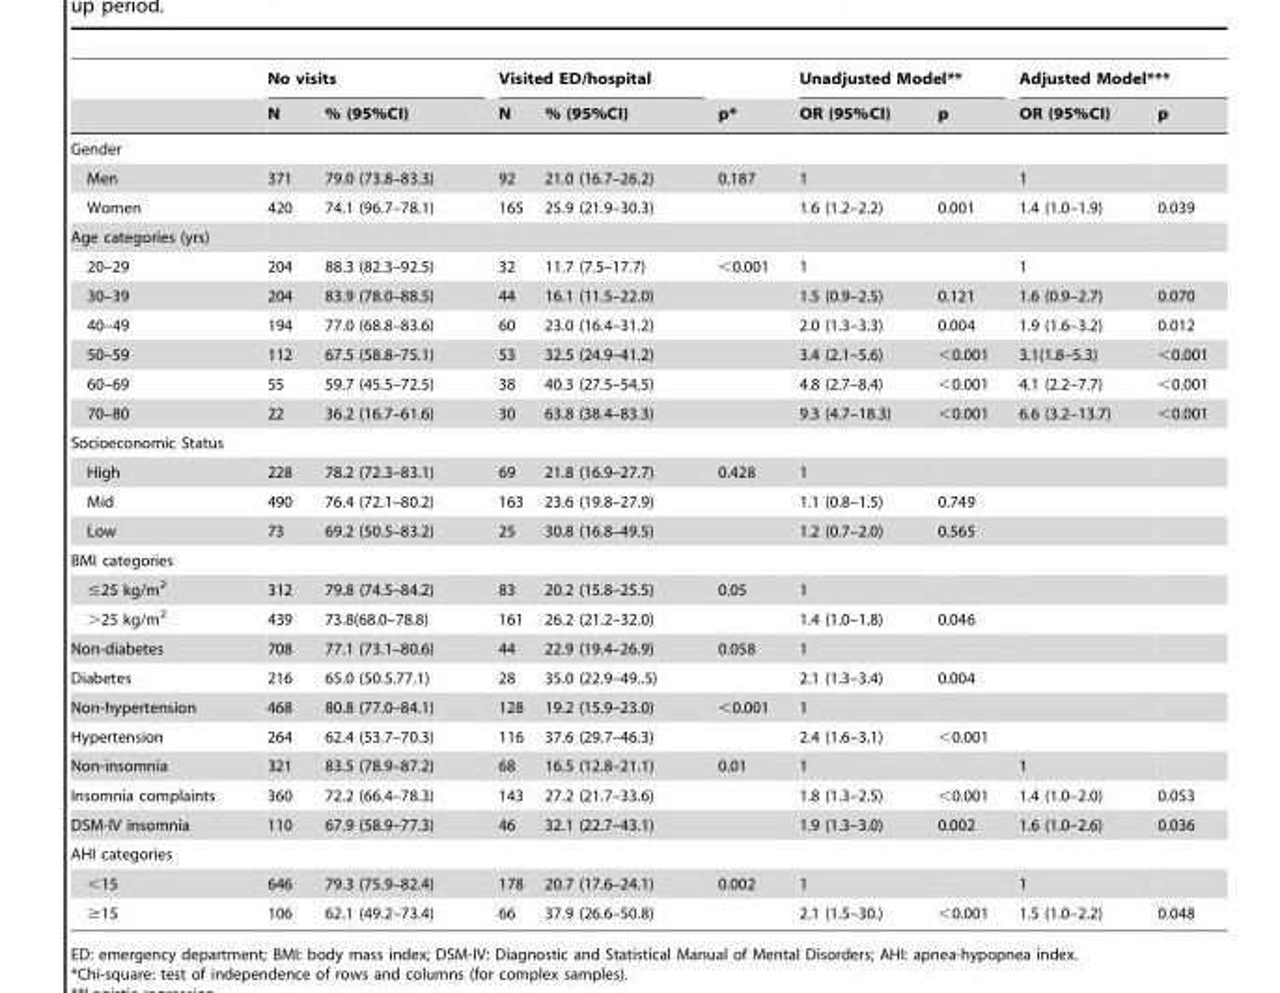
<table><thead><tr><td rowspan="2"></td><td colspan="2">No visits</td><td colspan="2">Visited ED/hospital</td><td rowspan="2">p*</td><td colspan="2">Unadjusted Model**</td><td colspan="2">Adjusted Model***</td></tr><tr><td>N</td><td>% (95%CI)</td><td>N</td><td>% (95%CI)</td><td>OR (95%CI)</td><td>p</td><td>OR (95%CI)</td><td>p</td></tr></thead><tbody><tr><td colspan="10">Gender</td></tr><tr><td>Men</td><td>371</td><td>79.0 (73.8–83.3)</td><td>92</td><td>21.0 (16.7–26.2)</td><td>0.187</td><td>1</td><td></td><td>1</td><td></td></tr><tr><td>Women</td><td>420</td><td>74.1 (96.7–78.1)</td><td>165</td><td>25.9 (21.9–30.3)</td><td></td><td>1.6 (1.2–2.2)</td><td>0.001</td><td>1.4 (1.0–1.9)</td><td>0.039</td></tr><tr><td colspan="10">Age categories (yrs)</td></tr><tr><td>20–29</td><td>204</td><td>88.3 (82.3–92.5)</td><td>32</td><td>11.7 (7.5–17.7)</td><td>&lt;0.001</td><td>1</td><td></td><td>1</td><td></td></tr><tr><td>30–39</td><td>204</td><td>83.9 (78.0–88.5)</td><td>44</td><td>16.1 (11.5–22.0)</td><td></td><td>1.5 (0.9–2.5)</td><td>0.121</td><td>1.6 (0.9–2.7)</td><td>0.070</td></tr><tr><td>40–49</td><td>194</td><td>77.0 (68.8–83.6)</td><td>60</td><td>23.0 (16.4–31.2)</td><td></td><td>2.0 (1.3–3.3)</td><td>0.004</td><td>1.9 (1.6–3.2)</td><td>0.012</td></tr><tr><td>50–59</td><td>112</td><td>67.5 (58.8–75.1)</td><td>53</td><td>32.5 (24.9–41.2)</td><td></td><td>3.4 (2.1–5.6)</td><td>&lt;0.001</td><td>3.1(1.8–5.3)</td><td>&lt;0.001</td></tr><tr><td>60–69</td><td>55</td><td>59.7 (45.5–72.5)</td><td>38</td><td>40.3 (27.5–54,5)</td><td></td><td>4.8 (2.7–8.4)</td><td>&lt;0.001</td><td>4.1 (2.2–7.7)</td><td>&lt;0.001</td></tr><tr><td>70–80</td><td>22</td><td>36.2 (16.7–61.6)</td><td>30</td><td>63.8 (38.4–83.3)</td><td></td><td>9.3 (4.7–18.3)</td><td>&lt;0.001</td><td>6.6 (3.2–13.7)</td><td>&lt;0.001</td></tr><tr><td colspan="10">Socioeconomic Status</td></tr><tr><td>High</td><td>228</td><td>78.2 (72.3–83.1)</td><td>69</td><td>21.8 (16.9–27.7)</td><td>0.428</td><td>1</td><td></td><td></td><td></td></tr><tr><td>Mid</td><td>490</td><td>76.4 (72.1–80.2)</td><td>163</td><td>23.6 (19.8–27.9)</td><td></td><td>1.1 (0.8–1.5)</td><td>0.749</td><td></td><td></td></tr><tr><td>Low</td><td>73</td><td>69.2 (50.5–83.2)</td><td>25</td><td>30.8 (16.8–49.5)</td><td></td><td>1.2 (0.7–2.0)</td><td>0.565</td><td></td><td></td></tr><tr><td colspan="10">BMI categories</td></tr><tr><td>≤25 kg/m<sup>2</sup></td><td>312</td><td>79.8 (74.5–84.2)</td><td>83</td><td>20.2 (15.8–25.5)</td><td>0.05</td><td>1</td><td></td><td></td><td></td></tr><tr><td>&gt;25 kg/m<sup>2</sup></td><td>439</td><td>73.8(68.0–78.8)</td><td>161</td><td>26.2 (21.2–32.0)</td><td></td><td>1.4 (1.0–1.8)</td><td>0.046</td><td></td><td></td></tr><tr><td>Non-diabetes</td><td>708</td><td>77.1 (73.1–80.6)</td><td>44</td><td>22.9 (19.4–26.9)</td><td>0.058</td><td>1</td><td></td><td></td><td></td></tr><tr><td>Diabetes</td><td>216</td><td>65.0 (50.5.77.1)</td><td>28</td><td>35.0 (22.9–49..5)</td><td></td><td>2.1 (1.3–3.4)</td><td>0.004</td><td></td><td></td></tr><tr><td>Non-hypertension</td><td>468</td><td>80.8 (77.0–84.1)</td><td>128</td><td>19.2 (15.9–23.0)</td><td>&lt;0.001</td><td>1</td><td></td><td></td><td></td></tr><tr><td>Hypertension</td><td>264</td><td>62.4 (53.7–70.3)</td><td>116</td><td>37.6 (29.7–46.3)</td><td></td><td>2.4 (1.6–3.1)</td><td>&lt;0.001</td><td></td><td></td></tr><tr><td>Non-insomnia</td><td>321</td><td>83.5 (78.9–87.2)</td><td>68</td><td>16.5 (12.8–21.1)</td><td>0.01</td><td>1</td><td></td><td>1</td><td></td></tr><tr><td>Insomnia complaints</td><td>360</td><td>72.2 (66.4–78.3)</td><td>143</td><td>27.2 (21.7–33.6)</td><td></td><td>1.8 (1.3–2.5)</td><td>&lt;0.001</td><td>1.4 (1.0–2.0)</td><td>0.053</td></tr><tr><td>DSM-IV insomnia</td><td>110</td><td>67.9 (58.9–77.3)</td><td>46</td><td>32.1 (22.7–43.1)</td><td></td><td>1.9 (1.3–3.0)</td><td>0.002</td><td>1.6 (1.0–2.6)</td><td>0.036</td></tr><tr><td colspan="10">AHI categories</td></tr><tr><td>&lt;15</td><td>646</td><td>79.3 (75.9–82.4)</td><td>178</td><td>20.7 (17.6–24.1)</td><td>0.002</td><td>1</td><td></td><td>1</td><td></td></tr><tr><td>≥15</td><td>106</td><td>62.1 (49.2–73.4)</td><td>66</td><td>37.9 (26.6–50.8)</td><td></td><td>2.1 (1.5–30.)</td><td>&lt;0.001</td><td>1.5 (1.0–2.2)</td><td>0.048</td></tr></tbody></table>